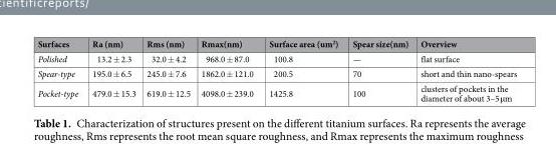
<table><thead><tr><td>Surfaces</td><td>Ra (nm)</td><td>Rms (nm)</td><td>Rmax(nm)</td><td>Surface area (um<sup>2</sup>)</td><td>Spear size(nm)</td><td>Overview</td></tr></thead><tbody><tr><td>Polished</td><td>13.2 ± 2.3</td><td>32.0 ± 4.2</td><td>968.0 ± 87.0</td><td>100.8</td><td>—</td><td>flat surface</td></tr><tr><td>Spear-type</td><td>195.0 ± 6.5</td><td>245.0 ± 7.6</td><td>1862.0 ± 121.0</td><td>200.5</td><td>70</td><td>short and thin nano-spears</td></tr><tr><td>Pocket-type</td><td>479.0 ± 15.3</td><td>619.0 ± 12.5</td><td>4098.0 ± 239.0</td><td>1425.8</td><td>100</td><td>clusters of pockets in the diameter of about 3–5 µm</td></tr></tbody></table>